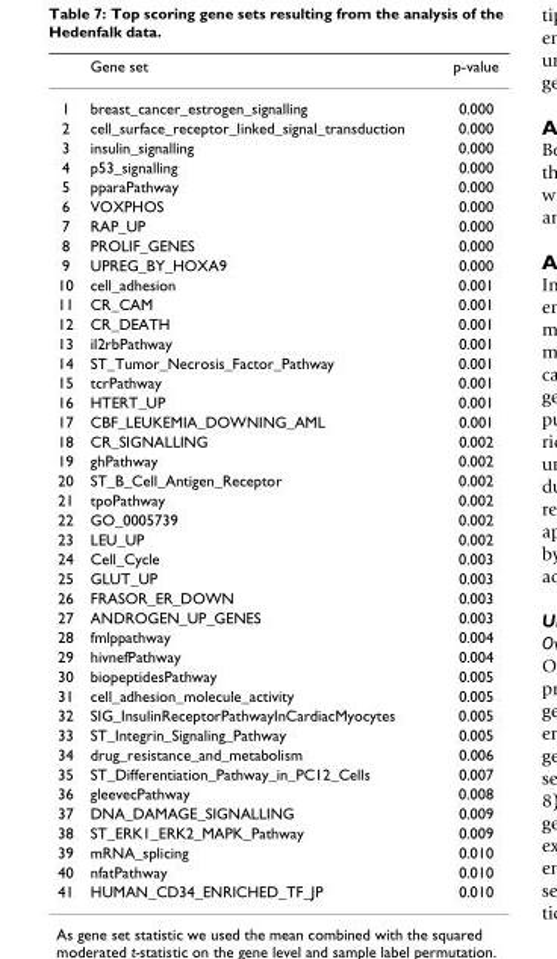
<table><thead><tr><td></td><td>Gene set</td><td>p-value</td></tr></thead><tbody><tr><td>1</td><td>breast_cancer_estrogen_signalling</td><td>0.000</td></tr><tr><td>2</td><td>cell_surface_receptor_linked_signal_transduction</td><td>0.000</td></tr><tr><td>3</td><td>insulin_signalling</td><td>0.000</td></tr><tr><td>4</td><td>p53_signalling</td><td>0.000</td></tr><tr><td>5</td><td>pparaPathway</td><td>0.000</td></tr><tr><td>6</td><td>VOXPHOS</td><td>0.000</td></tr><tr><td>7</td><td>RAP_UP</td><td>0.000</td></tr><tr><td>8</td><td>PROLIF_GENES</td><td>0.000</td></tr><tr><td>9</td><td>UPREG_BY_HOXA9</td><td>0.000</td></tr><tr><td>10</td><td>cell_adhesion</td><td>0.001</td></tr><tr><td>11</td><td>CR_CAM</td><td>0.001</td></tr><tr><td>12</td><td>CR_DEATH</td><td>0.001</td></tr><tr><td>13</td><td>il2rbPathway</td><td>0.001</td></tr><tr><td>14</td><td>ST_Tumor_Necrosis_Factor_Pathway</td><td>0.001</td></tr><tr><td>15</td><td>tcrPathway</td><td>0.001</td></tr><tr><td>16</td><td>HTERT_UP</td><td>0.001</td></tr><tr><td>17</td><td>CBF_LEUKEMIA_DOWNING_AML</td><td>0.001</td></tr><tr><td>18</td><td>CR_SIGNALLING</td><td>0.002</td></tr><tr><td>19</td><td>ghPathway</td><td>0.002</td></tr><tr><td>20</td><td>ST_B_Cell_Antigen_Receptor</td><td>0.002</td></tr><tr><td>21</td><td>tpoPathway</td><td>0.002</td></tr><tr><td>22</td><td>GO_0005739</td><td>0.002</td></tr><tr><td>23</td><td>LEU_UP</td><td>0.002</td></tr><tr><td>24</td><td>Cell_Cycle</td><td>0.003</td></tr><tr><td>25</td><td>GLUT_UP</td><td>0.003</td></tr><tr><td>26</td><td>FRASOR_ER_DOWN</td><td>0.003</td></tr><tr><td>27</td><td>ANDROGEN_UP_GENES</td><td>0.003</td></tr><tr><td>28</td><td>fmlppathway</td><td>0.004</td></tr><tr><td>29</td><td>hivnefPathway</td><td>0.004</td></tr><tr><td>30</td><td>biopeptidesPathway</td><td>0.005</td></tr><tr><td>31</td><td>cell_adhesion_molecule_activity</td><td>0.005</td></tr><tr><td>32</td><td>SIG_InsulinReceptorPathwayInCardiacMyocytes</td><td>0.005</td></tr><tr><td>33</td><td>ST_Integrin_Signaling_Pathway</td><td>0.005</td></tr><tr><td>34</td><td>drug_resistance_and_metabolism</td><td>0.006</td></tr><tr><td>35</td><td>ST_Differentiation_Pathway_in_PC12_Cells</td><td>0.007</td></tr><tr><td>36</td><td>gleevecPathway</td><td>0.008</td></tr><tr><td>37</td><td>DNA_DAMAGE_SIGNALLING</td><td>0.009</td></tr><tr><td>38</td><td>ST_ERK1_ERK2_MAPK_Pathway</td><td>0.009</td></tr><tr><td>39</td><td>mRNA_splicing</td><td>0.010</td></tr><tr><td>40</td><td>nfatPathway</td><td>0.010</td></tr><tr><td>41</td><td>HUMAN_CD34_ENRICHED_TF_JP</td><td>0.010</td></tr></tbody></table>